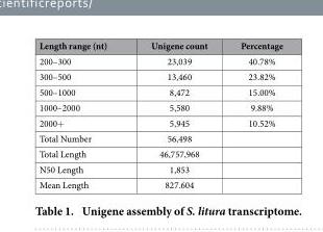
<table><thead><tr><td>Length range (nt)</td><td>Unigene count</td><td>Percentage</td></tr></thead><tbody><tr><td>200–300</td><td>23,039</td><td>40.78%</td></tr><tr><td>300–500</td><td>13,460</td><td>23.82%</td></tr><tr><td>500–1000</td><td>8,472</td><td>15.00%</td></tr><tr><td>1000–2000</td><td>5,580</td><td>9.88%</td></tr><tr><td>2000+</td><td>5,945</td><td>10.52%</td></tr><tr><td>Total Number</td><td>56,498</td><td></td></tr><tr><td>Total Length</td><td>46,757,968</td><td></td></tr><tr><td>N50 Length</td><td>1,853</td><td></td></tr><tr><td>Mean Length</td><td>827.604</td><td></td></tr></tbody></table>